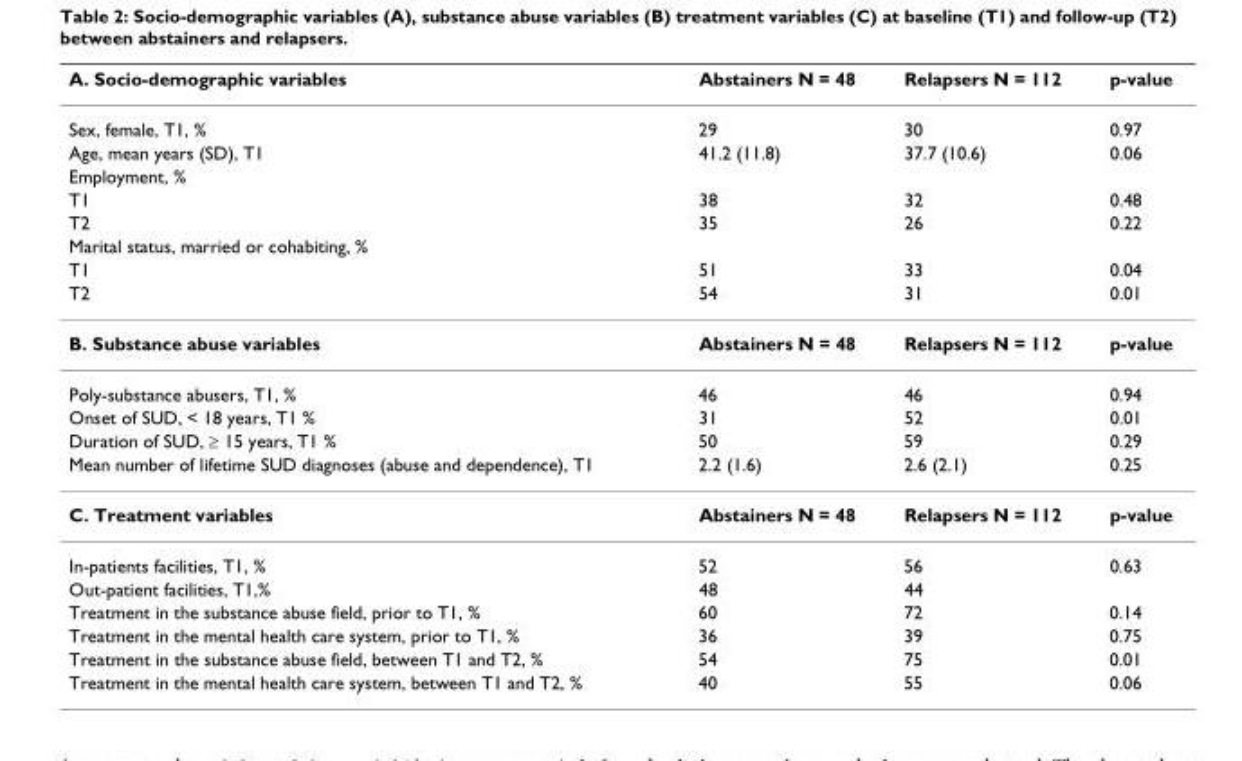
<table><thead><tr><td>A. Socio-demographic variables</td><td>Abstainers N = 48</td><td>Relapsers N = 112</td><td>p-value</td></tr></thead><tbody><tr><td>Sex, female, T1, %</td><td>29</td><td>30</td><td>0.97</td></tr><tr><td>Age, mean years (SD), T1</td><td>41.2 (11.8)</td><td>37.7 (10.6)</td><td>0.06</td></tr><tr><td colspan="4">Employment, %</td></tr><tr><td>T1</td><td>38</td><td>32</td><td>0.48</td></tr><tr><td>T2</td><td>35</td><td>26</td><td>0.22</td></tr><tr><td colspan="4">Marital status, married or cohabiting, %</td></tr><tr><td>T1</td><td>51</td><td>33</td><td>0.04</td></tr><tr><td>T2</td><td>54</td><td>31</td><td>0.01</td></tr><tr><td>B. Substance abuse variables</td><td>Abstainers N = 48</td><td>Relapsers N = 112</td><td>p-value</td></tr><tr><td>Poly-substance abusers, T1, %</td><td>46</td><td>46</td><td>0.94</td></tr><tr><td>Onset of SUD, &lt; 18 years, T1 %</td><td>31</td><td>52</td><td>0.01</td></tr><tr><td>Duration of SUD, ≥ 15 years, T1 %</td><td>50</td><td>59</td><td>0.29</td></tr><tr><td>Mean number of lifetime SUD diagnoses (abuse and dependence), T1</td><td>2.2 (1.6)</td><td>2.6 (2.1)</td><td>0.25</td></tr><tr><td>C. Treatment variables</td><td>Abstainers N = 48</td><td>Relapsers N = 112</td><td>p-value</td></tr><tr><td>In-patients facilities, T1, %</td><td>52</td><td>56</td><td>0.63</td></tr><tr><td>Out-patient facilities, T1,%</td><td>48</td><td>44</td><td></td></tr><tr><td>Treatment in the substance abuse field, prior to T1, %</td><td>60</td><td>72</td><td>0.14</td></tr><tr><td>Treatment in the mental health care system, prior to T1, %</td><td>36</td><td>39</td><td>0.75</td></tr><tr><td>Treatment in the substance abuse field, between T1 and T2, %</td><td>54</td><td>75</td><td>0.01</td></tr><tr><td>Treatment in the mental health care system, between T1 and T2, %</td><td>40</td><td>55</td><td>0.06</td></tr></tbody></table>